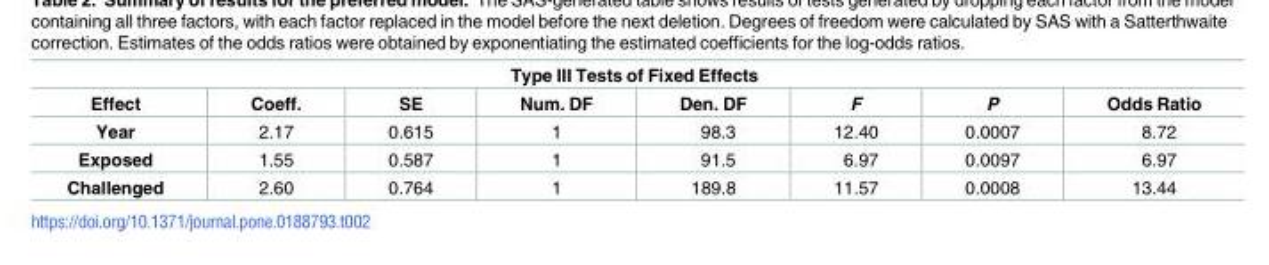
<table><thead><tr><td colspan="8">Type III Tests of Fixed Effects</td></tr><tr><td>Effect</td><td>Coeff.</td><td>SE</td><td>Num. DF</td><td>Den. DF</td><td>F</td><td>P</td><td>Odds Ratio</td></tr></thead><tbody><tr><td>Year</td><td>2.17</td><td>0.615</td><td>1</td><td>98.3</td><td>12.40</td><td>0.0007</td><td>8.72</td></tr><tr><td>Exposed</td><td>1.55</td><td>0.587</td><td>1</td><td>91.5</td><td>6.97</td><td>0.0097</td><td>6.97</td></tr><tr><td>Challenged</td><td>2.60</td><td>0.764</td><td>1</td><td>189.8</td><td>11.57</td><td>0.0008</td><td>13.44</td></tr></tbody></table>